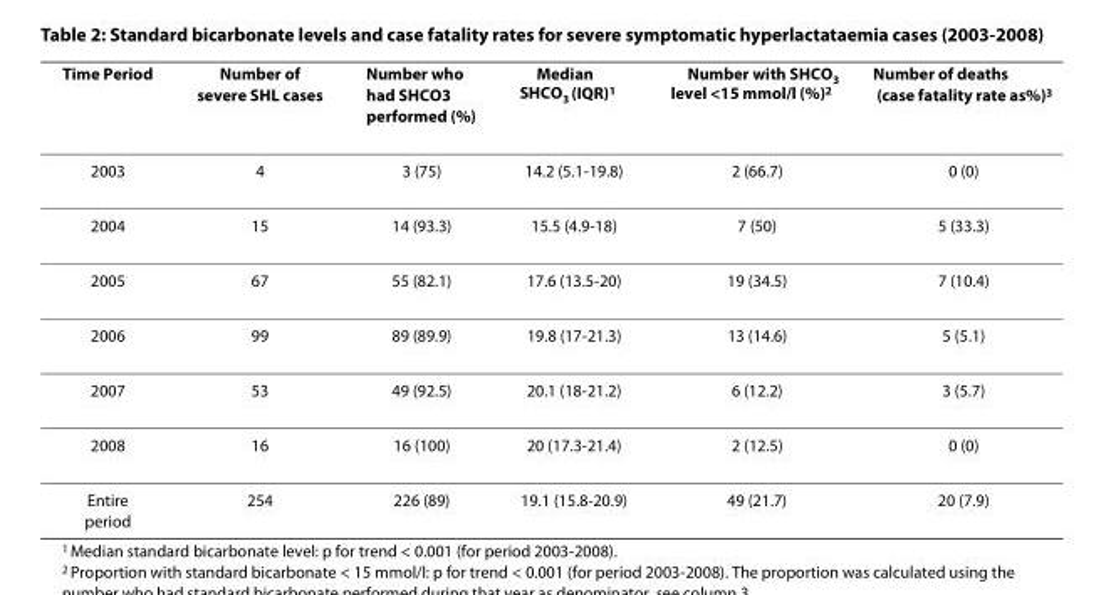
<table><thead><tr><td>Time Period</td><td>Number of severe SHL cases</td><td>Number who had SHCO<sub>3</sub> performed (%)</td><td>Median SHCO<sub>3</sub> (IQR)<sup>1</sup></td><td>Number with SHCO<sub>3</sub> level &lt;15 mmol/l (%)<sup>2</sup></td><td>Number of deaths (case fatality rate as%)<sup>3</sup></td></tr></thead><tbody><tr><td>2003</td><td>4</td><td>3 (75)</td><td>14.2 (5.1-19.8)</td><td>2 (66.7)</td><td>0 (0)</td></tr><tr><td>2004</td><td>15</td><td>14 (93.3)</td><td>15.5 (4.9-18)</td><td>7 (50)</td><td>5 (33.3)</td></tr><tr><td>2005</td><td>67</td><td>55 (82.1)</td><td>17.6 (13.5-20)</td><td>19 (34.5)</td><td>7 (10.4)</td></tr><tr><td>2006</td><td>99</td><td>89 (89.9)</td><td>19.8 (17-21.3)</td><td>13 (14.6)</td><td>5 (5.1)</td></tr><tr><td>2007</td><td>53</td><td>49 (92.5)</td><td>20.1 (18-21.2)</td><td>6 (12.2)</td><td>3 (5.7)</td></tr><tr><td>2008</td><td>16</td><td>16 (100)</td><td>20 (17.3-21.4)</td><td>2 (12.5)</td><td>0 (0)</td></tr><tr><td>Entire period</td><td>254</td><td>226 (89)</td><td>19.1 (15.8-20.9)</td><td>49 (21.7)</td><td>20 (7.9)</td></tr></tbody></table>